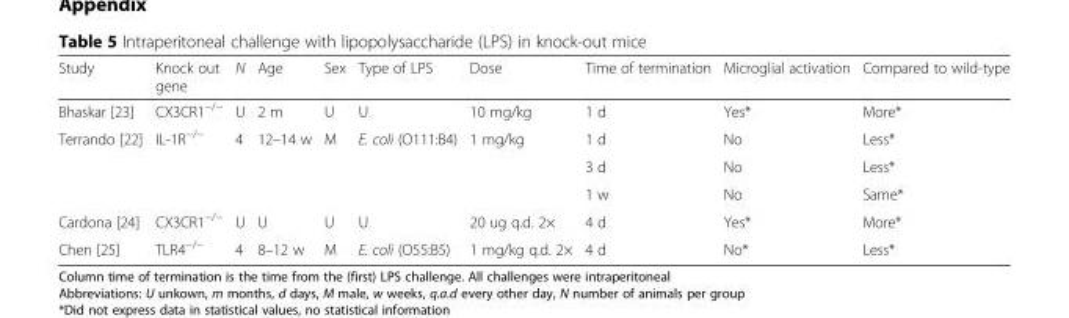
<table><thead><tr><td>Study</td><td>Knock out gene</td><td>N</td><td>Age</td><td>Sex</td><td>Type of LPS</td><td>Dose</td><td>Time of termination</td><td>Microglial activation</td><td>Compared to wild-type</td></tr></thead><tbody><tr><td>Bhaskar [23]</td><td>CX3CR1<sup>−/−</sup></td><td>U</td><td>2 m</td><td>U</td><td>U</td><td>10 mg/kg</td><td>1 d</td><td>Yes*</td><td>More*</td></tr><tr><td rowspan="3">Terrando [22]</td><td>IL-1R<sup>−/−</sup></td><td>4</td><td>12–14 w</td><td>M</td><td>E. coli (O111:B4)</td><td>1 mg/kg</td><td>1 d</td><td>No</td><td>Less*</td></tr><tr><td></td><td></td><td></td><td></td><td></td><td></td><td>3 d</td><td>No</td><td>Less*</td></tr><tr><td></td><td></td><td></td><td></td><td></td><td></td><td>1 w</td><td>No</td><td>Same*</td></tr><tr><td>Cardona [24]</td><td>CX3CR1<sup>−/−</sup></td><td>U</td><td>U</td><td>U</td><td>U</td><td>20 ug q.d. 2×</td><td>4 d</td><td>Yes*</td><td>More*</td></tr><tr><td>Chen [25]</td><td>TLR4<sup>−/−</sup></td><td>4</td><td>8–12 w</td><td>M</td><td>E. coli (O55:B5)</td><td>1 mg/kg q.d. 2×</td><td>4 d</td><td>No*</td><td>Less*</td></tr></tbody></table>